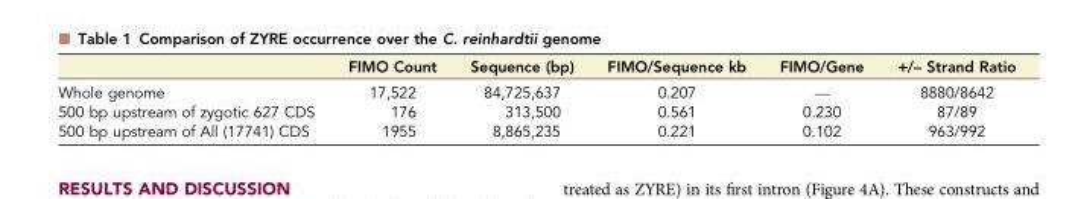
<table><thead><tr><td></td><td>FIMO Count</td><td>Sequence (bp)</td><td>FIMO/Sequence kb</td><td>FIMO/Gene</td><td>+/– Strand Ratio</td></tr></thead><tbody><tr><td>Whole genome</td><td>17,522</td><td>84,725,637</td><td>0.207</td><td>—</td><td>8880/8642</td></tr><tr><td>500 bp upstream of zygotic 627 CDS</td><td>176</td><td>313,500</td><td>0.561</td><td>0.230</td><td>87/89</td></tr><tr><td>500 bp upstream of All (17741) CDS</td><td>1955</td><td>8,865,235</td><td>0.221</td><td>0.102</td><td>963/992</td></tr></tbody></table>